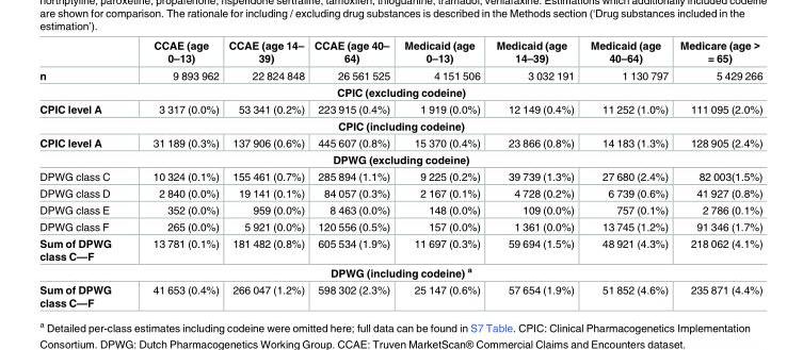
<table><thead><tr><td></td><td>CCAE (age 0–13)</td><td>CCAE (age 14– 39)</td><td>CCAE (age 40– 64)</td><td>Medicaid (age 0–13)</td><td>Medicaid (age 14–39)</td><td>Medicaid (age 40–64)</td><td>Medicare (age &gt; = 65)</td></tr></thead><tbody><tr><td>n</td><td>9 893 962</td><td>22 824 848</td><td>26 561 525</td><td>4 151 506</td><td>3 032 191</td><td>1 130 797</td><td>5 429 266</td></tr><tr><td colspan="8">CPIC (excluding codeine)</td></tr><tr><td>CPIC level A</td><td>3 317 (0.0%)</td><td>53 341 (0.2%)</td><td>223 915 (0.4%)</td><td>1 919 (0.0%)</td><td>12 149 (0.4%)</td><td>11 252 (1.0%)</td><td>111 095 (2.0%)</td></tr><tr><td colspan="8">CPIC (including codeine)</td></tr><tr><td>CPIC level A</td><td>31 189 (0.3%)</td><td>137 906 (0.6%)</td><td>445 607 (0.8%)</td><td>15 370 (0.4%)</td><td>23 866 (0.8%)</td><td>14 183 (1.3%)</td><td>128 905 (2.4%)</td></tr><tr><td colspan="8">DPWG (excluding codeine)</td></tr><tr><td>DPWG class C</td><td>10 324 (0.1%)</td><td>155 461 (0.7%)</td><td>285 894 (1.1%)</td><td>9 225 (0.2%)</td><td>39 739 (1.3%)</td><td>27 680 (2.4%)</td><td>82 003(1.5%)</td></tr><tr><td>DPWG class D</td><td>2 840 (0.0%)</td><td>19 141 (0.1%)</td><td>84 057 (0.3%)</td><td>2 167 (0.1%)</td><td>4 728 (0.2%)</td><td>6 739 (0.6%)</td><td>41 927 (0.8%)</td></tr><tr><td>DPWG class E</td><td>352 (0.0%)</td><td>959 (0.0%)</td><td>8 463 (0.0%)</td><td>148 (0.0%)</td><td>109 (0.0%)</td><td>757 (0.1%)</td><td>2 786 (0.1%)</td></tr><tr><td>DPWG class F</td><td>265 (0.0%)</td><td>5 921 (0.0%)</td><td>120 556 (0.5%)</td><td>157 (0.0%)</td><td>1 361 (0.0%)</td><td>13 745 (1.2%)</td><td>91 346 (1.7%)</td></tr><tr><td>Sum of DPWG class C—F</td><td>13 781 (0.1%)</td><td>181 482 (0.8%)</td><td>605 534 (1.9%)</td><td>11 697 (0.3%)</td><td>59 694 (1.5%)</td><td>48 921 (4.3%)</td><td>218 062 (4.1%)</td></tr><tr><td colspan="8">DPWG (including codeine) <sup>a</sup></td></tr><tr><td>Sum of DPWG class C—F</td><td>41 653 (0.4%)</td><td>266 047 (1.2%)</td><td>598 302 (2.3%)</td><td>25 147 (0.6%)</td><td>57 654 (1.9%)</td><td>51 852 (4.6%)</td><td>235 871 (4.4%)</td></tr></tbody></table>